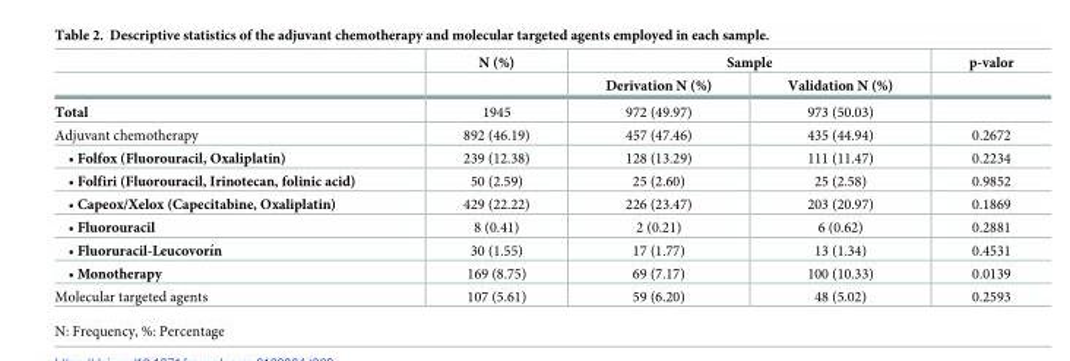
<table><thead><tr><td rowspan="2"></td><td rowspan="2">N (%)</td><td colspan="2">Sample</td><td rowspan="2">p-valor</td></tr><tr><td>Derivation N (%)</td><td>Validation N (%)</td></tr></thead><tbody><tr><td>Total</td><td>1945</td><td>972 (49.97)</td><td>973 (50.03)</td><td></td></tr><tr><td>Adjuvant chemotherapy</td><td>892 (46.19)</td><td>457 (47.46)</td><td>435 (44.94)</td><td>0.2672</td></tr><tr><td>• Folfox (Fluorouracil, Oxaliplatin)</td><td>239 (12.38)</td><td>128 (13.29)</td><td>111 (11.47)</td><td>0.2234</td></tr><tr><td>• Folfiri (Fluorouracil, Irinotecan, folinic acid)</td><td>50 (2.59)</td><td>25 (2.60)</td><td>25 (2.58)</td><td>0.9852</td></tr><tr><td>• Capeox/Xelox (Capecitabine, Oxaliplatin)</td><td>429 (22.22)</td><td>226 (23.47)</td><td>203 (20.97)</td><td>0.1869</td></tr><tr><td>• Fluorouracil</td><td>8 (0.41)</td><td>2 (0.21)</td><td>6 (0.62)</td><td>0.2881</td></tr><tr><td>• Fluoruracil-Leucovorı´n</td><td>30 (1.55)</td><td>17 (1.77)</td><td>13 (1.34)</td><td>0.4531</td></tr><tr><td>• Monotherapy</td><td>169 (8.75)</td><td>69 (7.17)</td><td>100 (10.33)</td><td>0.0139</td></tr><tr><td>Molecular targeted agents</td><td>107 (5.61)</td><td>59 (6.20)</td><td>48 (5.02)</td><td>0.2593</td></tr></tbody></table>